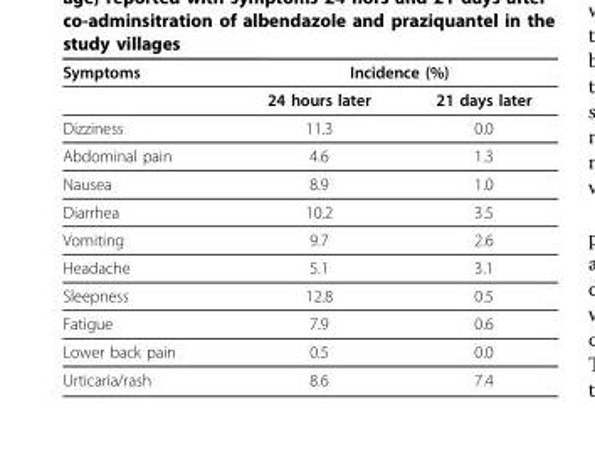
<table><thead><tr><td rowspan="2">Symptoms</td><td colspan="2">Incidence (%)</td></tr><tr><td>24 hours later</td><td>21 days later</td></tr></thead><tbody><tr><td>Dizziness</td><td>11.3</td><td>0.0</td></tr><tr><td>Abdominal pain</td><td>4.6</td><td>1.3</td></tr><tr><td>Nausea</td><td>8.9</td><td>1.0</td></tr><tr><td>Diarrhea</td><td>10.2</td><td>3.5</td></tr><tr><td>Vomiting</td><td>9.7</td><td>2.6</td></tr><tr><td>Headache</td><td>5.1</td><td>3.1</td></tr><tr><td>Sleepness</td><td>12.8</td><td>0.5</td></tr><tr><td>Fatigue</td><td>7.9</td><td>0.6</td></tr><tr><td>Lower back pain</td><td>0.5</td><td>0.0</td></tr><tr><td>Urticaria/rash</td><td>8.6</td><td>7.4</td></tr></tbody></table>